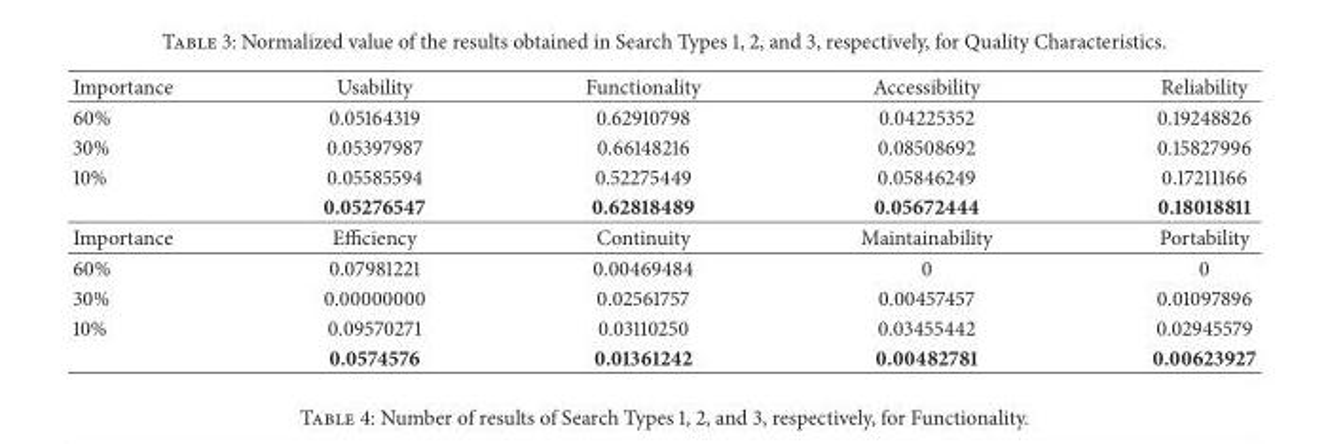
<table><thead><tr><td>Importance</td><td>Usability</td><td>Functionality</td><td>Accessibility</td><td>Reliability</td></tr></thead><tbody><tr><td>60%</td><td>0.05164319</td><td>0.62910798</td><td>0.04225352</td><td>0.19248826</td></tr><tr><td>30%</td><td>0.05397987</td><td>0.66148216</td><td>0.08508692</td><td>0.15827996</td></tr><tr><td rowspan="2">10%</td><td>0.05585594</td><td>0.52275449</td><td>0.05846249</td><td>0.17211166</td></tr><tr><td>0.05276547</td><td>0.62818489</td><td>0.05672444</td><td>0.18018811</td></tr><tr><td>Importance</td><td>Efficiency</td><td>Continuity</td><td>Maintainability</td><td>Portability</td></tr><tr><td>60%</td><td>0.07981221</td><td>0.00469484</td><td>0</td><td>0</td></tr><tr><td>30%</td><td>0.00000000</td><td>0.02561757</td><td>0.00457457</td><td>0.01097896</td></tr><tr><td rowspan="2">10%</td><td>0.09570271</td><td>0.03110250</td><td>0.03455442</td><td>0.02945579</td></tr><tr><td>0.0574576</td><td>0.01361242</td><td>0.00482781</td><td>0.00623927</td></tr></tbody></table>